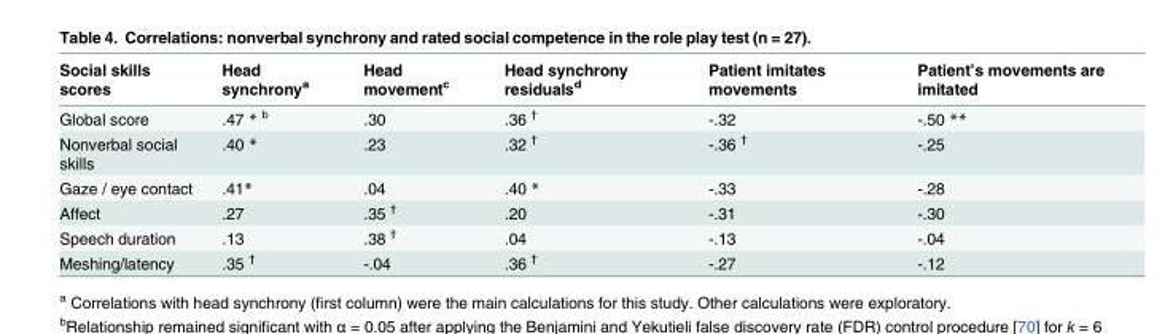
<table><thead><tr><td>Social skills scores</td><td>Head synchrony<sup>a</sup></td><td>Head movement<sup>c</sup></td><td>Head synchrony residuals<sup>d</sup></td><td>Patient imitates movements</td><td>Patient’s movements are imitated</td></tr></thead><tbody><tr><td>Global score</td><td>.47 * <sup>b</sup></td><td>.30</td><td>.36 <sup>†</sup></td><td>-.32</td><td>-.50 **</td></tr><tr><td>Nonverbal social skills</td><td>.40 *</td><td>.23</td><td>.32 <sup>†</sup></td><td>-.36 <sup>†</sup></td><td>-.25</td></tr><tr><td>Gaze / eye contact</td><td>.41*</td><td>.04</td><td>.40 *</td><td>-.33</td><td>-.28</td></tr><tr><td>Affect</td><td>.27</td><td>.35 <sup>†</sup></td><td>.20</td><td>-.31</td><td>-.30</td></tr><tr><td>Speech duration</td><td>.13</td><td>.38 <sup>†</sup></td><td>.04</td><td>-.13</td><td>-.04</td></tr><tr><td>Meshing/latency</td><td>.35 <sup>†</sup></td><td>-.04</td><td>.36 <sup>†</sup></td><td>-.27</td><td>-.12</td></tr></tbody></table>